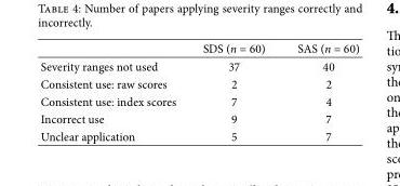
<table><thead><tr><td></td><td>SDS (n = 60)</td><td>SAS (n = 60)</td></tr></thead><tbody><tr><td>Severity ranges not used</td><td>37</td><td>40</td></tr><tr><td>Consistent use: raw scores</td><td>2</td><td>2</td></tr><tr><td>Consistent use: index scores</td><td>7</td><td>4</td></tr><tr><td>Incorrect use</td><td>9</td><td>7</td></tr><tr><td>Unclear application</td><td>5</td><td>7</td></tr></tbody></table>